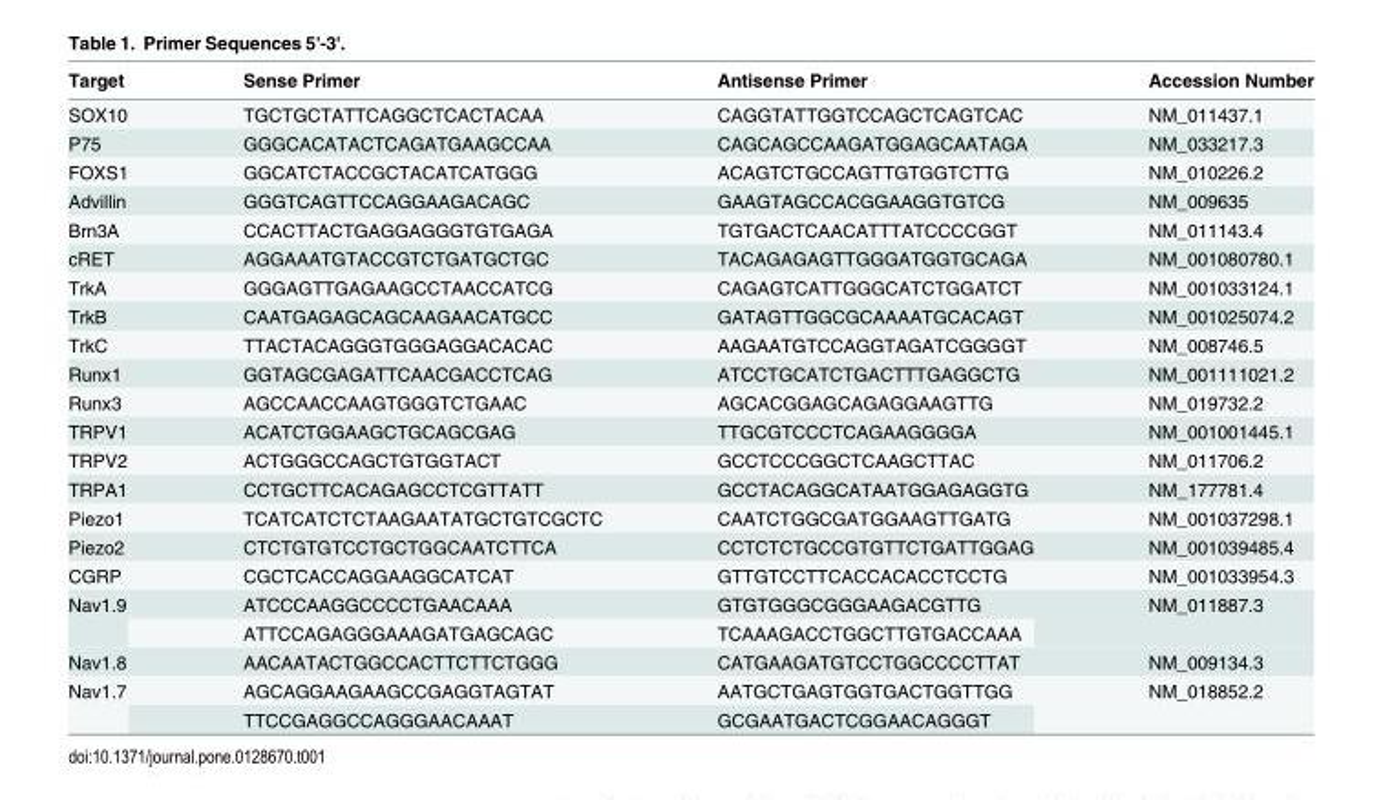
<table><thead><tr><td>Target</td><td>Sense Primer</td><td>Antisense Primer</td><td>Accession Number</td></tr></thead><tbody><tr><td>SOX10</td><td>TGCTGCTATTCAGGCTCACTACAA</td><td>CAGGTATTGGTCCAGCTCAGTCAC</td><td>NM_011437.1</td></tr><tr><td>P75</td><td>GGGCACATACTCAGATGAAGCCAA</td><td>CAGCAGCCAAGATGGAGCAATAGA</td><td>NM_033217.3</td></tr><tr><td>FOXS1</td><td>GGCATCTACCGCTACATCATGGG</td><td>ACAGTCTGCCAGTTGTGGTCTTG</td><td>NM_010226.2</td></tr><tr><td>Advillin</td><td>GGGTCAGTTCCAGGAAGACAGC</td><td>GAAGTAGCCACGGAAGGTGTCG</td><td>NM_009635</td></tr><tr><td>Brn3A</td><td>CCACTTACTGAGGAGGGTGTGAGA</td><td>TGTGACTCAACATTTATCCCCGGT</td><td>NM_011143.4</td></tr><tr><td>cRET</td><td>AGGAAATGTACCGTCTGATGCTGC</td><td>TACAGAGAGTTGGGATGGTGCAGA</td><td>NM_001080780.1</td></tr><tr><td>TrkA</td><td>GGGAGTTGAGAAGCCTAACCATCG</td><td>CAGAGTCATTGGGCATCTGGATCT</td><td>NM_001033124.1</td></tr><tr><td>TrkB</td><td>CAATGAGAGCAGCAAGAACATGCC</td><td>GATAGTTGGCGCAAAATGCACAGT</td><td>NM_001025074.2</td></tr><tr><td>TrkC</td><td>TTACTACAGGGTGGGAGGACACAC</td><td>AAGAATGTCCAGGTAGATCGGGGT</td><td>NM_008746.5</td></tr><tr><td>Runx1</td><td>GGTAGCGAGATTCAACGACCTCAG</td><td>ATCCTGCATCTGACTTTGAGGCTG</td><td>NM_001111021.2</td></tr><tr><td>Runx3</td><td>AGCCAACCAAGTGGGTCTGAAC</td><td>AGCACGGAGCAGAGGAAGTTG</td><td>NM_019732.2</td></tr><tr><td>TRPV1</td><td>ACATCTGGAAGCTGCAGCGAG</td><td>TTGCGTCCCTCAGAAGGGGA</td><td>NM_001001445.1</td></tr><tr><td>TRPV2</td><td>ACTGGGCCAGCTGTGGTACT</td><td>GCCTCCCGGCTCAAGCTTAC</td><td>NM_011706.2</td></tr><tr><td>TRPA1</td><td>CCTGCTTCACAGAGCCTCGTTATT</td><td>GCCTACAGGCATAATGGAGAGGTG</td><td>NM_177781.4</td></tr><tr><td>Piezo1</td><td>TCATCATCTCTAAGAATATGCTGTCGCTC</td><td>CAATCTGGCGATGGAAGTTGATG</td><td>NM_001037298.1</td></tr><tr><td>Piezo2</td><td>CTCTGTGTCCTGCTGGCAATCTTCA</td><td>CCTCTCTGCCGTGTTCTGATTGGAG</td><td>NM_001039485.4</td></tr><tr><td>CGRP</td><td>CGCTCACCAGGAAGGCATCAT</td><td>GTTGTCCTTCACCACACCTCCTG</td><td>NM_001033954.3</td></tr><tr><td rowspan="2">Nav1.9</td><td>ATCCCAAGGCCCCTGAACAAA</td><td>GTGTGGGCGGGAAGACGTTG</td><td rowspan="2">NM_011887.3</td></tr><tr><td>ATTCCAGAGGGAAAGATGAGCAGC</td><td>TCAAAGACCTGGCTTGTGACCAAA</td></tr><tr><td>Nav1.8</td><td>AACAATACTGGCCACTTCTTCTGGG</td><td>CATGAAGATGTCCTGGCCCCTTAT</td><td>NM_009134.3</td></tr><tr><td rowspan="2">Nav1.7</td><td>AGCAGGAAGAAGCCGAGGTAGTAT</td><td>AATGCTGAGTGGTGACTGGTTGG</td><td rowspan="2">NM_018852.2</td></tr><tr><td>TTCCGAGGCCAGGGAACAAAT</td><td>GCGAATGACTCGGAACAGGGT</td></tr></tbody></table>